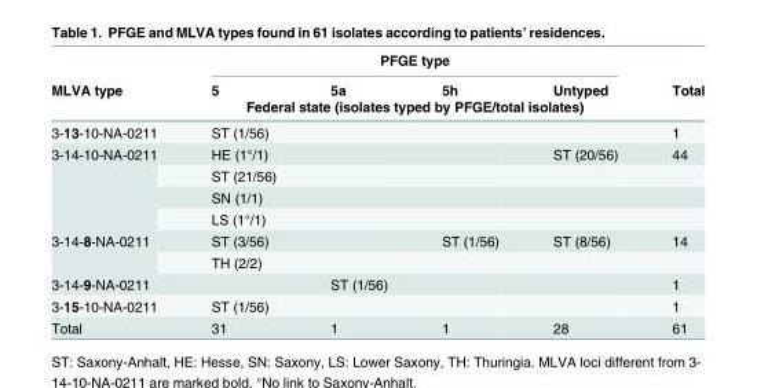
<table><thead><tr><td rowspan="3">MLVA type</td><td colspan="4">PFGE type</td><td rowspan="3">Total</td></tr><tr><td>5</td><td>5a</td><td>5h</td><td>Untyped</td></tr><tr><td colspan="4">Federal state (isolates typed by PFGE/total isolates)</td></tr></thead><tbody><tr><td>3-13-10-NA-0211</td><td>ST (1/56)</td><td></td><td></td><td></td><td>1</td></tr><tr><td rowspan="4">3-14-10-NA-0211</td><td>HE (1°/1)</td><td></td><td></td><td>ST (20/56)</td><td>44</td></tr><tr><td>ST (21/56)</td><td></td><td></td><td></td><td></td></tr><tr><td>SN (1/1)</td><td></td><td></td><td></td><td></td></tr><tr><td>LS (1°/1)</td><td></td><td></td><td></td><td></td></tr><tr><td rowspan="2">3-14-8-NA-0211</td><td>ST (3/56)</td><td></td><td>ST (1/56)</td><td>ST (8/56)</td><td>14</td></tr><tr><td>TH (2/2)</td><td></td><td></td><td></td><td></td></tr><tr><td>3-14-9-NA-0211</td><td></td><td>ST (1/56)</td><td></td><td></td><td>1</td></tr><tr><td>3-15-10-NA-0211</td><td>ST (1/56)</td><td></td><td></td><td></td><td>1</td></tr><tr><td>Total</td><td>31</td><td>1</td><td>1</td><td>28</td><td>61</td></tr></tbody></table>